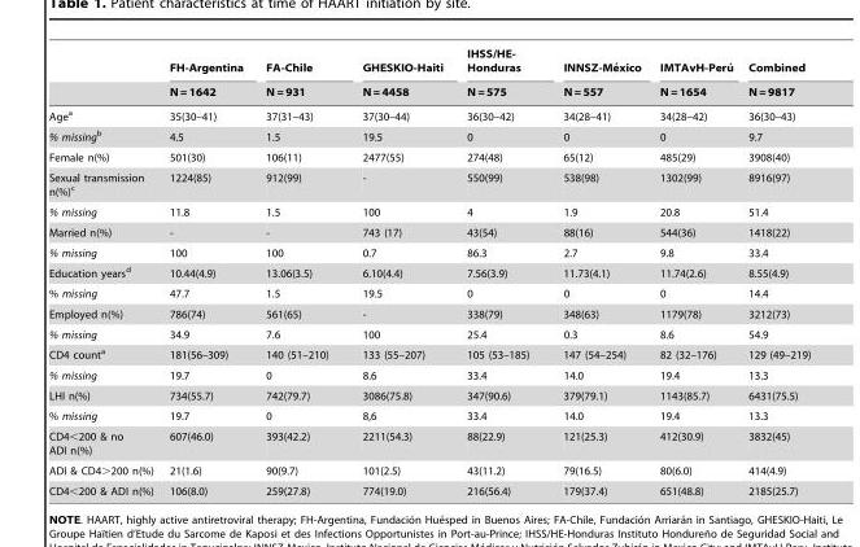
<table><thead><tr><td rowspan="2"></td><td rowspan="2">FH-Argentina N = 1642</td><td rowspan="2">FA-Chile N = 931</td><td rowspan="2">GHESKIO-Haiti N = 4458</td><td rowspan="2">IHSS/HE- Honduras N = 575</td><td rowspan="2">INNSZ-Me´xico N = 557</td><td rowspan="2">IMTAvH-Peru´ N = 1654</td><td rowspan="2">Combined N = 9817</td></tr><tr></tr></thead><tbody><tr><td>Age<sup>a</sup></td><td>35(30–41)</td><td>37(31–43)</td><td>37(30–44)</td><td>36(30–42)</td><td>34(28–41)</td><td>34(28–42)</td><td>36(30–43)</td></tr><tr><td>% missingb</td><td>4.5</td><td>1.5</td><td>19.5</td><td>0</td><td>0</td><td>0</td><td>9.7</td></tr><tr><td>Female n(%)</td><td>501(30)</td><td>106(11)</td><td>2477(55)</td><td>274(48)</td><td>65(12)</td><td>485(29)</td><td>3908(40)</td></tr><tr><td>Sexual transmission n(%)<sup>c</sup></td><td>1224(85)</td><td>912(99)</td><td>-</td><td>550(99)</td><td>538(98)</td><td>1302(99)</td><td>8916(97)</td></tr><tr><td>% missing</td><td>11.8</td><td>1.5</td><td>100</td><td>4</td><td>1.9</td><td>20.8</td><td>51.4</td></tr><tr><td>Married n(%)</td><td>-</td><td>-</td><td>743 (17)</td><td>43(54)</td><td>88(16)</td><td>544(36)</td><td>1418(22)</td></tr><tr><td>% missing</td><td>100</td><td>100</td><td>0.7</td><td>86.3</td><td>2.7</td><td>9.8</td><td>33.4</td></tr><tr><td>Education years<sup>d</sup></td><td>10.44(4.9)</td><td>13.06(3.5)</td><td>6.10(4.4)</td><td>7.56(3.9)</td><td>11.73(4.1)</td><td>11.74(2.6)</td><td>8.55(4.9)</td></tr><tr><td>% missing</td><td>47.7</td><td>1.5</td><td>19.5</td><td>0</td><td>0</td><td>0</td><td>14.4</td></tr><tr><td>Employed n(%)</td><td>786(74)</td><td>561(65)</td><td>-</td><td>338(79)</td><td>348(63)</td><td>1179(78)</td><td>3212(73)</td></tr><tr><td>% missing</td><td>34.9</td><td>7.6</td><td>100</td><td>25.4</td><td>0.3</td><td>8.6</td><td>54.9</td></tr><tr><td>CD4 count<sup>a</sup></td><td>181(56–309)</td><td>140 (51–210)</td><td>133 (55–207)</td><td>105 (53–185)</td><td>147 (54–254)</td><td>82 (32–176)</td><td>129 (49–219)</td></tr><tr><td>% missing</td><td>19.7</td><td>0</td><td>8.6</td><td>33.4</td><td>14.0</td><td>19.4</td><td>13.3</td></tr><tr><td>LHI n(%)</td><td>734(55.7)</td><td>742(79.7)</td><td>3086(75.8)</td><td>347(90.6)</td><td>379(79.1)</td><td>1143(85.7)</td><td>6431(75.5)</td></tr><tr><td>% missing</td><td>19.7</td><td>0</td><td>8,6</td><td>33.4</td><td>14.0</td><td>19.4</td><td>13.3</td></tr><tr><td>CD4&lt;200 &amp; no ADI n(%)</td><td>607(46.0)</td><td>393(42.2)</td><td>2211(54.3)</td><td>88(22.9)</td><td>121(25.3)</td><td>412(30.9)</td><td>3832(45)</td></tr><tr><td>ADI &amp; CD4&gt;200 n(%)</td><td>21(1.6)</td><td>90(9.7)</td><td>101(2.5)</td><td>43(11.2)</td><td>79(16.5)</td><td>80(6.0)</td><td>414(4.9)</td></tr><tr><td>CD4&lt;200 &amp; ADI n(%)</td><td>106(8.0)</td><td>259(27.8)</td><td>774(19.0)</td><td>216(56.4)</td><td>179(37.4)</td><td>651(48.8)</td><td>2185(25.7)</td></tr></tbody></table>